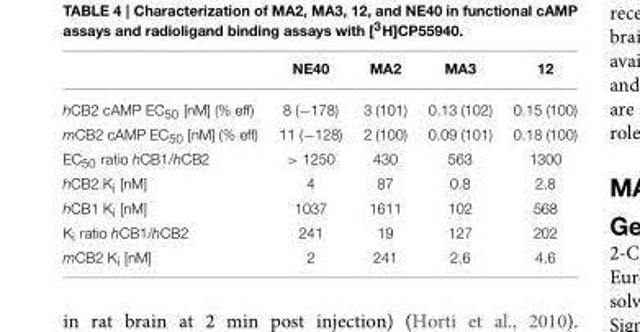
<table><thead><tr><td></td><td>NE40</td><td>MA2</td><td>MA3</td><td>12</td></tr></thead><tbody><tr><td>hCB2 cAMP EC<sub>50</sub> [nM] (% eff)</td><td>8 (−178)</td><td>3 (101)</td><td>0.13 (102)</td><td>0.15 (100)</td></tr><tr><td>mCB2 cAMP EC<sub>50</sub> [nM] (% eff)</td><td>11 (−128)</td><td>2 (100)</td><td>0.09 (101)</td><td>0.18 (100)</td></tr><tr><td>EC<sub>50</sub> ratio hCB1/hCB2</td><td>&gt; 1250</td><td>430</td><td>563</td><td>1300</td></tr><tr><td>hCB2 K<sub>i</sub> [nM]</td><td>4</td><td>87</td><td>0.8</td><td>2.8</td></tr><tr><td>hCB1 K<sub>i</sub> [nM]</td><td>1037</td><td>1611</td><td>102</td><td>568</td></tr><tr><td>K<sub>i</sub> ratio hCB1/hCB2</td><td>241</td><td>19</td><td>127</td><td>202</td></tr><tr><td>mCB2 K<sub>i</sub> [nM]</td><td>2</td><td>241</td><td>2.6</td><td>4.6</td></tr></tbody></table>